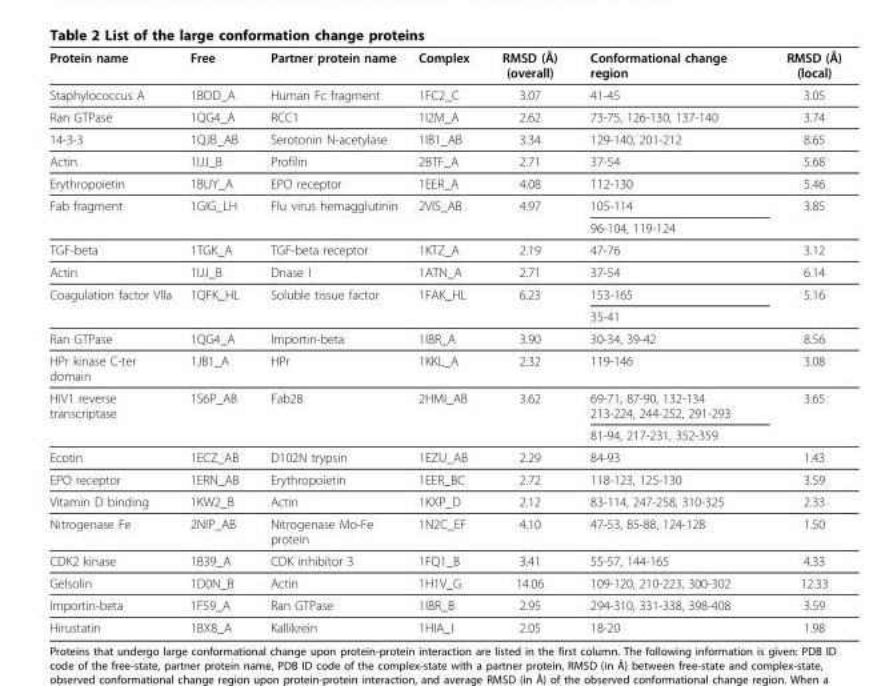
<table><thead><tr><td>Protein name</td><td>Free</td><td>Partner protein name</td><td>Complex</td><td>RMSD (Å) (overall)</td><td>Conformational change region</td><td>RMSD (Å) (local)</td></tr></thead><tbody><tr><td>Staphylococcus A</td><td>1BDD_A</td><td>Human Fc fragment</td><td>1FC2_C</td><td>3.07</td><td>41-45</td><td>3.05</td></tr><tr><td>Ran GTPase</td><td>1QG4_A</td><td>RCC1</td><td>1I2M_A</td><td>2.62</td><td>73-75, 126-130, 137-140</td><td>3.74</td></tr><tr><td>14-3-3</td><td>1QJB_AB</td><td>Serotonin N-acetylase</td><td>1IB1_AB</td><td>3.34</td><td>129-140, 201-212</td><td>8.65</td></tr><tr><td>Actin</td><td>1IJJ_B</td><td>Profilin</td><td>2BTF_A</td><td>2.71</td><td>37-54</td><td>5.68</td></tr><tr><td>Erythropoietin</td><td>1BUY_A</td><td>EPO receptor</td><td>1EER_A</td><td>4.08</td><td>112-130</td><td>5.46</td></tr><tr><td rowspan="2">Fab fragment</td><td>1GIG_LH</td><td>Flu virus hemagglutinin</td><td>2VIS_AB</td><td>4.97</td><td>105-114</td><td>3.85</td></tr><tr><td></td><td></td><td></td><td></td><td>96-104, 119-124</td><td></td></tr><tr><td>TGF-beta</td><td>1TGK_A</td><td>TGF-beta receptor</td><td>1KTZ_A</td><td>2.19</td><td>47-76</td><td>3.12</td></tr><tr><td>Actin</td><td>1IJJ_B</td><td>Dnase I</td><td>1ATN_A</td><td>2.71</td><td>37-54</td><td>6.14</td></tr><tr><td rowspan="2">Coagulation factor Vlla</td><td>1QFK_HL</td><td>Soluble tissue factor</td><td>1FAK_HL</td><td>6.23</td><td>153-165</td><td>5.16</td></tr><tr><td></td><td></td><td></td><td></td><td>35-41</td><td></td></tr><tr><td>Ran GTPase</td><td>1QG4_A</td><td>Importin-beta</td><td>1IBR_A</td><td>3.90</td><td>30-34, 39-42</td><td>8.56</td></tr><tr><td>HPr kinase C-ter domain</td><td>1JB1_A</td><td>HPr</td><td>1KKL_A</td><td>2.32</td><td>119-146</td><td>3.08</td></tr><tr><td rowspan="2">HIV1 reverse transcriptase</td><td>1S6P_AB</td><td>Fab28</td><td>2HMI_AB</td><td>3.62</td><td>69-71, 87-90, 132-134 213-224, 244-252, 291-293</td><td>3.65</td></tr><tr><td></td><td></td><td></td><td></td><td>81-94, 217-231, 352-359</td><td></td></tr><tr><td>Ecotin</td><td>1ECZ_AB</td><td>D102N trypsin</td><td>1EZU_AB</td><td>2.29</td><td>84-93</td><td>1.43</td></tr><tr><td>EPO receptor</td><td>1ERN_AB</td><td>Erythropoietin</td><td>1EER_BC</td><td>2.72</td><td>118-123, 125-130</td><td>3.59</td></tr><tr><td>Vitamin D binding</td><td>1KW2_B</td><td>Actin</td><td>1KXP_D</td><td>2.12</td><td>83-114, 247-258, 310-325</td><td>2.33</td></tr><tr><td>Nitrogenase Fe</td><td>2NIP_AB</td><td>Nitrogenase Mo-Fe protein</td><td>1N2C_EF</td><td>4.10</td><td>47-53, 85-88, 124-128</td><td>1.50</td></tr><tr><td>CDK2 kinase</td><td>1B39_A</td><td>CDK inhibitor 3</td><td>1FQ1_B</td><td>3.41</td><td>55-57, 144-165</td><td>4.33</td></tr><tr><td>Gelsolin</td><td>1D0N_B</td><td>Actin</td><td>1H1V_G</td><td>14.06</td><td>109-120, 210-223, 300-302</td><td>12.33</td></tr><tr><td>Importin-beta</td><td>1F59_A</td><td>Ran GTPase</td><td>1IBR_B</td><td>2.95</td><td>294-310, 331-338, 398-408</td><td>3.59</td></tr><tr><td>Hirustatin</td><td>1BX8_A</td><td>Kallikrein</td><td>1HIA_I</td><td>2.05</td><td>18-20</td><td>1.98</td></tr></tbody></table>